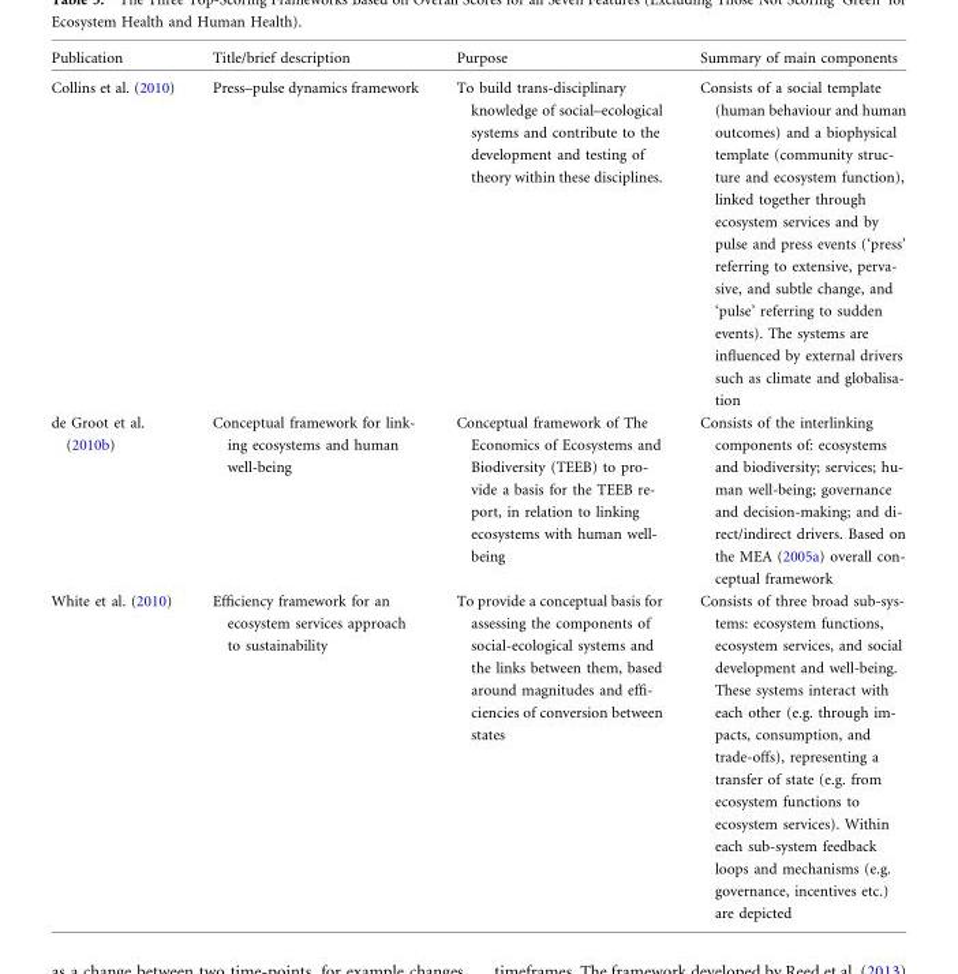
<table><thead><tr><td>Publication</td><td>Title/brief description</td><td>Purpose</td><td>Summary of main components</td></tr></thead><tbody><tr><td>Collins et al. (2010)</td><td>Press–pulse dynamics framework</td><td>To build trans-disciplinary knowledge of social–ecological systems and contribute to the development and testing of theory within these disciplines.</td><td>Consists of a social template (human behaviour and human outcomes) and a biophysical template (community struc- ture and ecosystem function), linked together through ecosystem services and by pulse and press events (‘press’ referring to extensive, perva- sive, and subtle change, and ‘pulse’ referring to sudden events). The systems are influenced by external drivers such as climate and globalisa- tion</td></tr><tr><td>de Groot et al. (2010b)</td><td>Conceptual framework for link- ing ecosystems and human well-being</td><td>Conceptual framework of The Economics of Ecosystems and Biodiversity (TEEB) to pro- vide a basis for the TEEB re- port, in relation to linking ecosystems with human well- being</td><td>Consists of the interlinking components of: ecosystems and biodiversity; services; hu- man well-being; governance and decision-making; and di- rect/indirect drivers. Based on the MEA (2005a) overall con- ceptual framework</td></tr><tr><td>White et al. (2010)</td><td>Efficiency framework for an ecosystem services approach to sustainability</td><td>To provide a conceptual basis for assessing the components of social-ecological systems and the links between them, based around magnitudes and effi- ciencies of conversion between states</td><td>Consists of three broad sub-sys- tems: ecosystem functions, ecosystem services, and social development and well-being. These systems interact with each other (e.g. through im- pacts, consumption, and trade-offs), representing a transfer of state (e.g. from ecosystem functions to ecosystem services). Within each sub-system feedback loops and mechanisms (e.g. governance, incentives etc.) are depicted</td></tr></tbody></table>